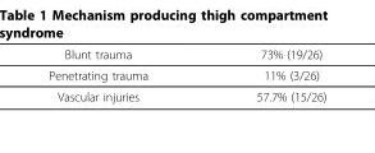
<table><thead><tr><td>Blunt trauma</td><td>73% (19/26)</td></tr></thead><tbody><tr><td>Penetrating trauma</td><td>11% (3/26)</td></tr><tr><td>Vascular injuries</td><td>57.7% (15/26)</td></tr></tbody></table>